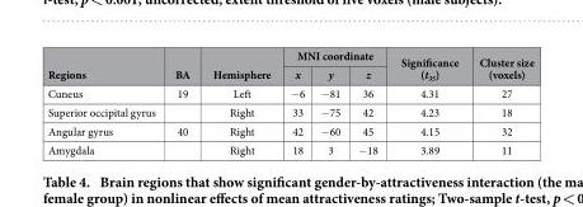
<table><thead><tr><td rowspan="2">Regions</td><td rowspan="2">BA</td><td rowspan="2">Hemisphere</td><td colspan="3">MNI coordinate</td><td rowspan="2">Significance (t<sub>35</sub>)</td><td rowspan="2">Cluster size (voxels)</td></tr><tr><td>x</td><td>y</td><td>z</td></tr></thead><tbody><tr><td>Cuneus</td><td>19</td><td>Left</td><td>− 6</td><td>− 81</td><td>36</td><td>4.31</td><td>27</td></tr><tr><td>Superior occipital gyrus</td><td></td><td>Right</td><td>33</td><td>− 75</td><td>42</td><td>4.23</td><td>18</td></tr><tr><td>Angular gyrus</td><td>40</td><td>Right</td><td>42</td><td>− 60</td><td>45</td><td>4.15</td><td>32</td></tr><tr><td>Amygdala</td><td></td><td>Right</td><td>18</td><td>3</td><td>− 18</td><td>3.89</td><td>11</td></tr></tbody></table>